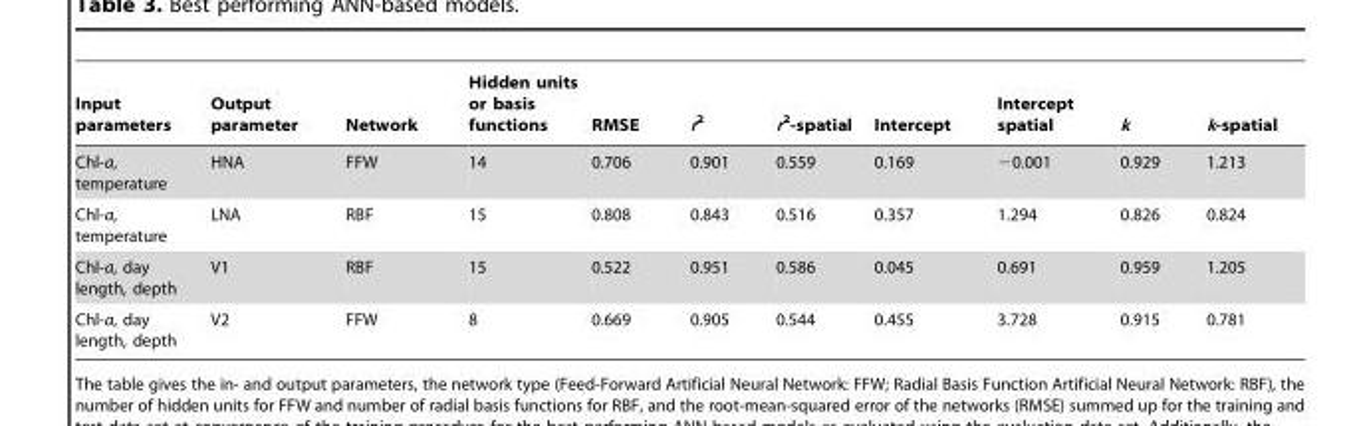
<table><thead><tr><td>Input parameters</td><td>Output parameter</td><td>Network</td><td>Hidden units or basis functions</td><td>RMSE</td><td>r<sup>2</sup></td><td>r<sup>2</sup>-spatial</td><td>Intercept</td><td>Intercept spatial</td><td>k</td><td>k-spatial</td></tr></thead><tbody><tr><td>Chl-a, temperature</td><td>HNA</td><td>FFW</td><td>14</td><td>0.706</td><td>0.901</td><td>0.559</td><td>0.169</td><td>−0.001</td><td>0.929</td><td>1.213</td></tr><tr><td>Chl-a, temperature</td><td>LNA</td><td>RBF</td><td>15</td><td>0.808</td><td>0.843</td><td>0.516</td><td>0.357</td><td>1.294</td><td>0.826</td><td>0.824</td></tr><tr><td>Chl-a, day length, depth</td><td>V1</td><td>RBF</td><td>15</td><td>0.522</td><td>0.951</td><td>0.586</td><td>0.045</td><td>0.691</td><td>0.959</td><td>1.205</td></tr><tr><td>Chl-a, day length, depth</td><td>V2</td><td>FFW</td><td>8</td><td>0.669</td><td>0.905</td><td>0.544</td><td>0.455</td><td>3.728</td><td>0.915</td><td>0.781</td></tr></tbody></table>